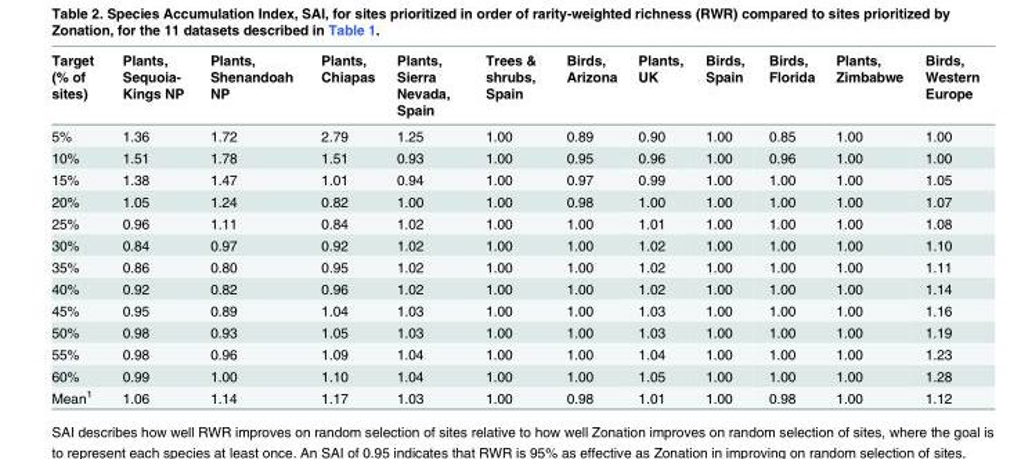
<table><thead><tr><td>Target (% of sites)</td><td>Plants, Sequoia- Kings NP</td><td>Plants, Shenandoah NP</td><td>Plants, Chiapas</td><td>Plants, Sierra Nevada, Spain</td><td>Trees &amp; shrubs, Spain</td><td>Birds, Arizona</td><td>Plants, UK</td><td>Birds, Spain</td><td>Birds, Florida</td><td>Plants, Zimbabwe</td><td>Birds, Western Europe</td></tr></thead><tbody><tr><td>5%</td><td>1.36</td><td>1.72</td><td>2.79</td><td>1.25</td><td>1.00</td><td>0.89</td><td>0.90</td><td>1.00</td><td>0.85</td><td>1.00</td><td>1.00</td></tr><tr><td>10%</td><td>1.51</td><td>1.78</td><td>1.51</td><td>0.93</td><td>1.00</td><td>0.95</td><td>0.96</td><td>1.00</td><td>0.96</td><td>1.00</td><td>1.00</td></tr><tr><td>15%</td><td>1.38</td><td>1.47</td><td>1.01</td><td>0.94</td><td>1.00</td><td>0.97</td><td>0.99</td><td>1.00</td><td>1.00</td><td>1.00</td><td>1.05</td></tr><tr><td>20%</td><td>1.05</td><td>1.24</td><td>0.82</td><td>1.00</td><td>1.00</td><td>0.98</td><td>1.00</td><td>1.00</td><td>1.00</td><td>1.00</td><td>1.07</td></tr><tr><td>25%</td><td>0.96</td><td>1.11</td><td>0.84</td><td>1.02</td><td>1.00</td><td>1.00</td><td>1.01</td><td>1.00</td><td>1.00</td><td>1.00</td><td>1.08</td></tr><tr><td>30%</td><td>0.84</td><td>0.97</td><td>0.92</td><td>1.02</td><td>1.00</td><td>1.00</td><td>1.02</td><td>1.00</td><td>1.00</td><td>1.00</td><td>1.10</td></tr><tr><td>35%</td><td>0.86</td><td>0.80</td><td>0.95</td><td>1.02</td><td>1.00</td><td>1.00</td><td>1.02</td><td>1.00</td><td>1.00</td><td>1.00</td><td>1.11</td></tr><tr><td>40%</td><td>0.92</td><td>0.82</td><td>0.96</td><td>1.02</td><td>1.00</td><td>1.00</td><td>1.02</td><td>1.00</td><td>1.00</td><td>1.00</td><td>1.14</td></tr><tr><td>45%</td><td>0.95</td><td>0.89</td><td>1.04</td><td>1.03</td><td>1.00</td><td>1.00</td><td>1.03</td><td>1.00</td><td>1.00</td><td>1.00</td><td>1.16</td></tr><tr><td>50%</td><td>0.98</td><td>0.93</td><td>1.05</td><td>1.03</td><td>1.00</td><td>1.00</td><td>1.03</td><td>1.00</td><td>1.00</td><td>1.00</td><td>1.19</td></tr><tr><td>55%</td><td>0.98</td><td>0.96</td><td>1.09</td><td>1.04</td><td>1.00</td><td>1.00</td><td>1.04</td><td>1.00</td><td>1.00</td><td>1.00</td><td>1.23</td></tr><tr><td>60%</td><td>0.99</td><td>1.00</td><td>1.10</td><td>1.04</td><td>1.00</td><td>1.00</td><td>1.05</td><td>1.00</td><td>1.00</td><td>1.00</td><td>1.28</td></tr><tr><td>Mean<sup>1</sup></td><td>1.06</td><td>1.14</td><td>1.17</td><td>1.03</td><td>1.00</td><td>0.98</td><td>1.01</td><td>1.00</td><td>0.98</td><td>1.00</td><td>1.12</td></tr></tbody></table>